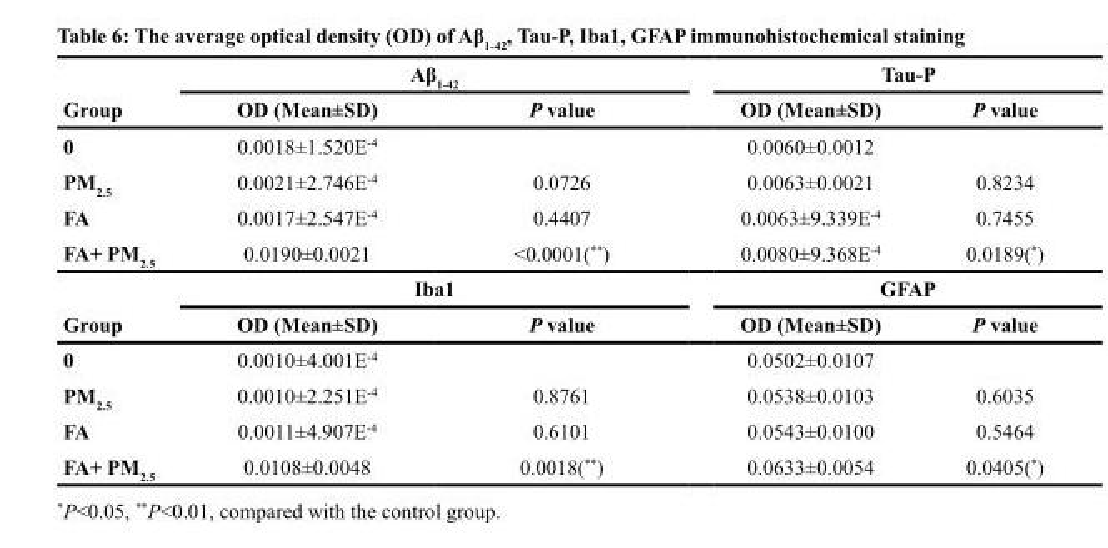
<table><thead><tr><td rowspan="2">Group</td><td colspan="2">Aβ<sub>1-42</sub></td><td colspan="2">Tau-P</td></tr><tr><td>OD (Mean±SD)</td><td>P value</td><td>OD (Mean±SD)</td><td>P value</td></tr></thead><tbody><tr><td>0</td><td>0.0018±1.520E<sup>-4</sup></td><td></td><td>0.0060±0.0012</td><td></td></tr><tr><td>PM<sub>2.5</sub></td><td>0.0021±2.746E<sup>-4</sup></td><td>0.0726</td><td>0.0063±0.0021</td><td>0.8234</td></tr><tr><td>FA</td><td>0.0017±2.547E<sup>-4</sup></td><td>0.4407</td><td>0.0063±9.339E<sup>-4</sup></td><td>0.7455</td></tr><tr><td>FA+ PM<sub>2.5</sub></td><td>0.0190±0.0021</td><td>&lt;0.0001(**)</td><td>0.0080±9.368E<sup>-4</sup></td><td>0.0189(*)</td></tr><tr><td rowspan="2">Group</td><td colspan="2">Iba1</td><td colspan="2">GFAP</td></tr><tr><td>OD (Mean±SD)</td><td>P value</td><td>OD (Mean±SD)</td><td>P value</td></tr><tr><td>0</td><td>0.0010±4.001E<sup>-4</sup></td><td></td><td>0.0502±0.0107</td><td></td></tr><tr><td>PM<sub>2.5</sub></td><td>0.0010±2.251E<sup>-4</sup></td><td>0.8761</td><td>0.0538±0.0103</td><td>0.6035</td></tr><tr><td>FA</td><td>0.0011±4.907E<sup>-4</sup></td><td>0.6101</td><td>0.0543±0.0100</td><td>0.5464</td></tr><tr><td>FA+ PM<sub>2.5</sub></td><td>0.0108±0.0048</td><td>0.0018(**)</td><td>0.0633±0.0054</td><td>0.0405(*)</td></tr></tbody></table>